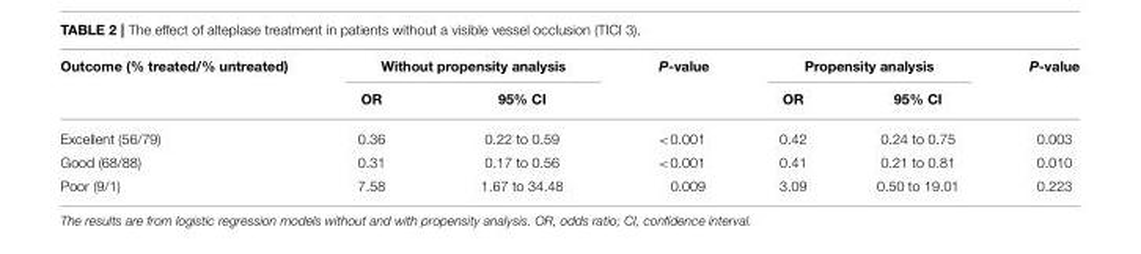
<table><thead><tr><td rowspan="2">Outcome (% treated/% untreated)</td><td colspan="2">Without propensity analysis</td><td rowspan="2">P-value</td><td colspan="2">Propensity analysis</td><td rowspan="2">P-value</td></tr><tr><td>OR</td><td>95% CI</td><td>OR</td><td>95% CI</td></tr></thead><tbody><tr><td>Excellent (56/79)</td><td>0.36</td><td>0.22 to 0.59</td><td>&lt;0.001</td><td>0.42</td><td>0.24 to 0.75</td><td>0.003</td></tr><tr><td>Good (68/88)</td><td>0.31</td><td>0.17 to 0.56</td><td>&lt;0.001</td><td>0.41</td><td>0.21 to 0.81</td><td>0.010</td></tr><tr><td>Poor (9/1)</td><td>7.58</td><td>1.67 to 34.48</td><td>0.009</td><td>3.09</td><td>0.50 to 19.01</td><td>0.223</td></tr></tbody></table>